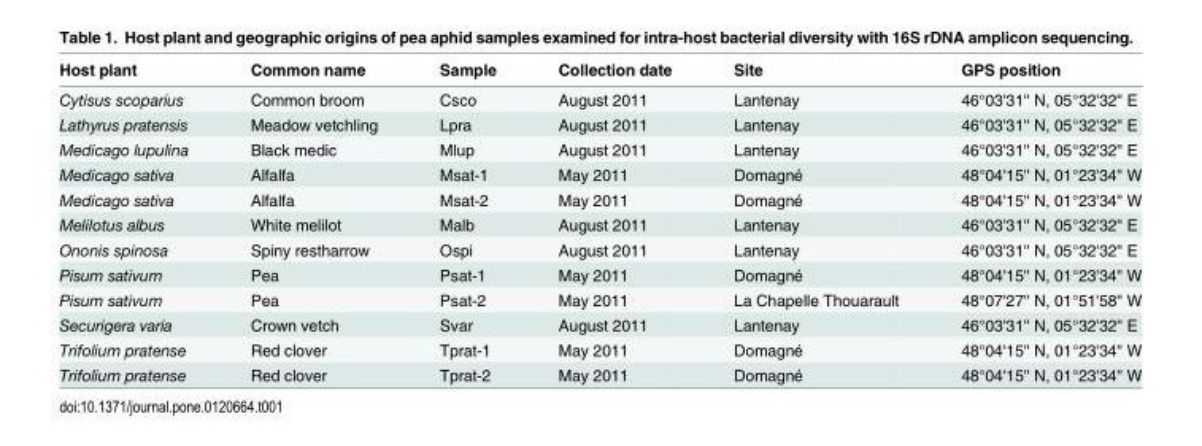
<table><thead><tr><td>Host plant</td><td>Common name</td><td>Sample</td><td>Collection date</td><td>Site</td><td>GPS position</td></tr></thead><tbody><tr><td>Cytisus scoparius</td><td>Common broom</td><td>Csco</td><td>August 2011</td><td>Lantenay</td><td>46°03&#x27;31&#x27;&#x27; N, 05°32&#x27;32&#x27;&#x27; E</td></tr><tr><td>Lathyrus pratensis</td><td>Meadow vetchling</td><td>Lpra</td><td>August 2011</td><td>Lantenay</td><td>46°03&#x27;31&#x27;&#x27; N, 05°32&#x27;32&#x27;&#x27; E</td></tr><tr><td>Medicago lupulina</td><td>Black medic</td><td>Mlup</td><td>August 2011</td><td>Lantenay</td><td>46°03&#x27;31&#x27;&#x27; N, 05°32&#x27;32&#x27;&#x27; E</td></tr><tr><td>Medicago sativa</td><td>Alfalfa</td><td>Msat-1</td><td>May 2011</td><td>Domagné</td><td>48°04&#x27;15&#x27;&#x27; N, 01°23&#x27;34&#x27;&#x27; W</td></tr><tr><td>Medicago sativa</td><td>Alfalfa</td><td>Msat-2</td><td>May 2011</td><td>Domagné</td><td>48°04&#x27;15&#x27;&#x27; N, 01°23&#x27;34&#x27;&#x27; W</td></tr><tr><td>Melilotus albus</td><td>White melilot</td><td>Malb</td><td>August 2011</td><td>Lantenay</td><td>46°03&#x27;31&#x27;&#x27; N, 05°32&#x27;32&#x27;&#x27; E</td></tr><tr><td>Ononis spinosa</td><td>Spiny restharrow</td><td>Ospi</td><td>August 2011</td><td>Lantenay</td><td>46°03&#x27;31&#x27;&#x27; N, 05°32&#x27;32&#x27;&#x27; E</td></tr><tr><td>Pisum sativum</td><td>Pea</td><td>Psat-1</td><td>May 2011</td><td>Domagné</td><td>48°04&#x27;15&#x27;&#x27; N, 01°23&#x27;34&#x27;&#x27; W</td></tr><tr><td>Pisum sativum</td><td>Pea</td><td>Psat-2</td><td>May 2011</td><td>La Chapelle Thouarault</td><td>48°07&#x27;27&#x27;&#x27; N, 01°51&#x27;58&#x27;&#x27; W</td></tr><tr><td>Securigera varia</td><td>Crown vetch</td><td>Svar</td><td>August 2011</td><td>Lantenay</td><td>46°03&#x27;31&#x27;&#x27; N, 05°32&#x27;32&#x27;&#x27; E</td></tr><tr><td>Trifolium pratense</td><td>Red clover</td><td>Tprat-1</td><td>May 2011</td><td>Domagné</td><td>48°04&#x27;15&#x27;&#x27; N, 01°23&#x27;34&#x27;&#x27; W</td></tr><tr><td>Trifolium pratense</td><td>Red clover</td><td>Tprat-2</td><td>May 2011</td><td>Domagné</td><td>48°04&#x27;15&#x27;&#x27; N, 01°23&#x27;34&#x27;&#x27; W</td></tr></tbody></table>